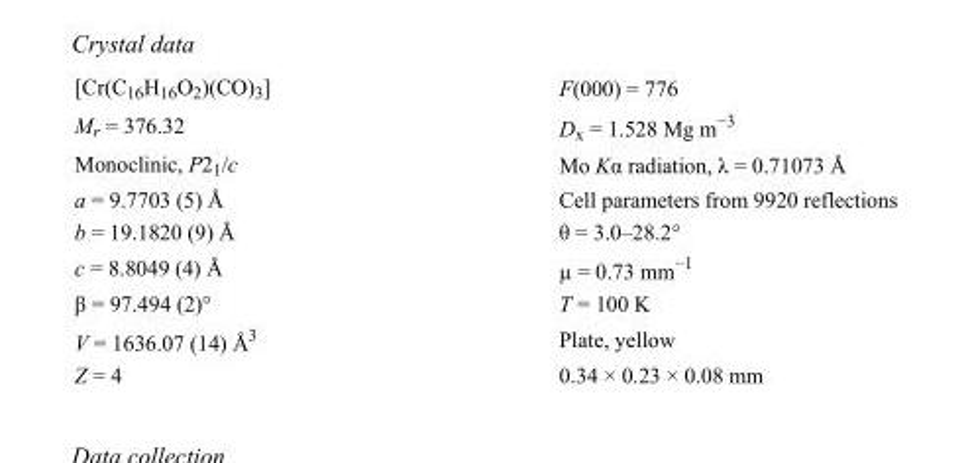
<table><tbody><tr><td>[Cr(C<sub>16</sub>H<sub>16</sub>O<sub>2</sub>)(CO)<sub>3</sub>]</td><td>F(000) = 776</td></tr><tr><td>M<sub>r</sub> = 376.32</td><td>D<sub>x</sub> = 1.528 Mg m<sup>−3</sup></td></tr><tr><td>Monoclinic, P2<sub>1</sub>/c</td><td>Mo Kα radiation, λ = 0.71073 Å</td></tr><tr><td>a = 9.7703 (5) Å</td><td>Cell parameters from 9920 reflections</td></tr><tr><td>b = 19.1820 (9) Å</td><td>θ = 3.0–28.2°</td></tr><tr><td>c = 8.8049 (4) Å</td><td>µ = 0.73 mm<sup>−1</sup></td></tr><tr><td>β = 97.494 (2)°</td><td>T = 100 K</td></tr><tr><td>V = 1636.07 (14) Å<sup>3</sup></td><td>Plate, yellow</td></tr><tr><td>Z = 4</td><td>0.34 × 0.23 × 0.08 mm</td></tr></tbody></table>